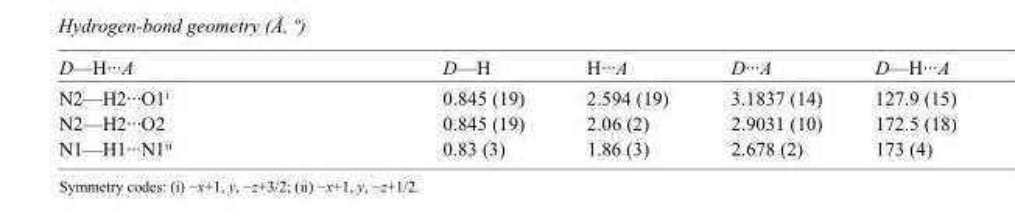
<table><tbody><tr><td>D—H···A</td><td>D—H</td><td>H···A</td><td>D···A</td><td>D—H···A</td></tr><tr><td>N2—H2···O1<sup>i</sup></td><td>0.845 (19)</td><td>2.594 (19)</td><td>3.1837 (14)</td><td>127.9 (15)</td></tr><tr><td>N2—H2···O2</td><td>0.845 (19)</td><td>2.06 (2)</td><td>2.9031 (10)</td><td>172.5 (18)</td></tr><tr><td>N1—H1···N1<sup>ii</sup></td><td>0.83 (3)</td><td>1.86 (3)</td><td>2.678 (2)</td><td>173 (4)</td></tr></tbody></table>